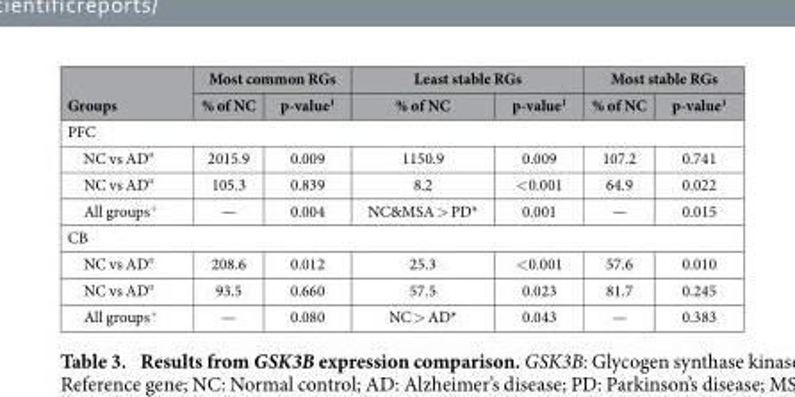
<table><thead><tr><td rowspan="2">Groups</td><td colspan="2">Most common RGs</td><td colspan="2">Least stable RGs</td><td colspan="2">Most stable RGs</td></tr><tr><td>% of NC</td><td>p-value<sup>1</sup></td><td>% of NC</td><td>p-value<sup>1</sup></td><td>% of NC</td><td>p-value<sup>1</sup></td></tr></thead><tbody><tr><td colspan="7">PFC</td></tr><tr><td>NC vs AD<sup>¤</sup></td><td>2015.9</td><td>0.009</td><td>1150.9</td><td>0.009</td><td>107.2</td><td>0.741</td></tr><tr><td>NC vs AD<sup>¤</sup></td><td>105.3</td><td>0.839</td><td>8.2</td><td>&lt;0.001</td><td>64.9</td><td>0.022</td></tr><tr><td>All groups<sup>+</sup></td><td>—</td><td>0.004</td><td>NC&amp;MSA &gt; PD*</td><td>0.001</td><td>—</td><td>0.015</td></tr><tr><td colspan="7">CB</td></tr><tr><td>NC vs AD<sup>¤</sup></td><td>208.6</td><td>0.012</td><td>25.3</td><td>&lt;0.001</td><td>57.6</td><td>0.010</td></tr><tr><td>NC vs AD<sup>¤</sup></td><td>93.5</td><td>0.660</td><td>57.5</td><td>0.023</td><td>81.7</td><td>0.245</td></tr><tr><td>All groups<sup>+</sup></td><td>—</td><td>0.080</td><td>NC &gt; AD*</td><td>0.043</td><td>—</td><td>0.383</td></tr></tbody></table>